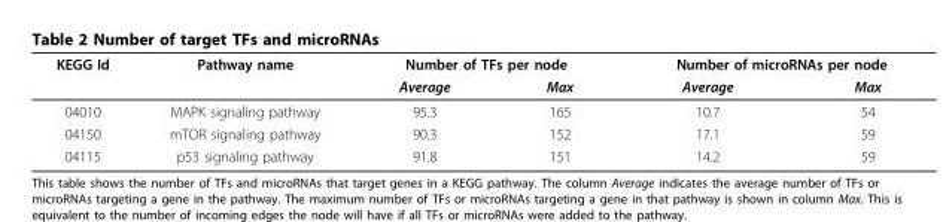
<table><thead><tr><td rowspan="2">KEGG Id</td><td rowspan="2">Pathway name</td><td colspan="2">Number of TFs per node</td><td colspan="2">Number of microRNAs per node</td></tr><tr><td>Average</td><td>Max</td><td>Average</td><td>Max</td></tr></thead><tbody><tr><td>04010</td><td>MAPK signaling pathway</td><td>95.3</td><td>165</td><td>10.7</td><td>54</td></tr><tr><td>04150</td><td>mTOR signaling pathway</td><td>90.3</td><td>152</td><td>17.1</td><td>59</td></tr><tr><td>04115</td><td>p53 signaling pathway</td><td>91.8</td><td>151</td><td>14.2</td><td>59</td></tr></tbody></table>